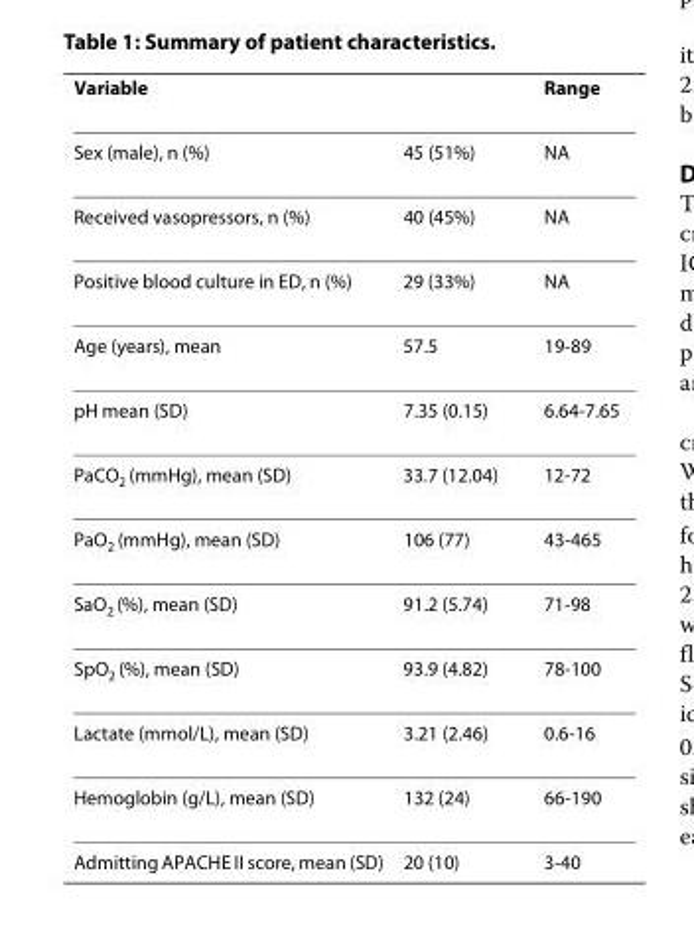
<table><thead><tr><td>Variable</td><td></td><td>Range</td></tr></thead><tbody><tr><td>Sex (male), n (%)</td><td>45 (51%)</td><td>NA</td></tr><tr><td>Received vasopressors, n (%)</td><td>40 (45%)</td><td>NA</td></tr><tr><td>Positive blood culture in ED, n (%)</td><td>29 (33%)</td><td>NA</td></tr><tr><td>Age (years), mean</td><td>57.5</td><td>19-89</td></tr><tr><td>pH mean (SD)</td><td>7.35 (0.15)</td><td>6.64-7.65</td></tr><tr><td>PaCO<sub>2</sub> (mmHg), mean (SD)</td><td>33.7 (12.04)</td><td>12-72</td></tr><tr><td>PaO<sub>2</sub> (mmHg), mean (SD)</td><td>106 (77)</td><td>43-465</td></tr><tr><td>SaO<sub>2</sub> (%), mean (SD)</td><td>91.2 (5.74)</td><td>71-98</td></tr><tr><td>SpO<sub>2</sub> (%), mean (SD)</td><td>93.9 (4.82)</td><td>78-100</td></tr><tr><td>Lactate (mmol/L), mean (SD)</td><td>3.21 (2.46)</td><td>0.6-16</td></tr><tr><td>Hemoglobin (g/L), mean (SD)</td><td>132 (24)</td><td>66-190</td></tr><tr><td>Admitting APACHE II score, mean (SD)</td><td>20 (10)</td><td>3-40</td></tr></tbody></table>